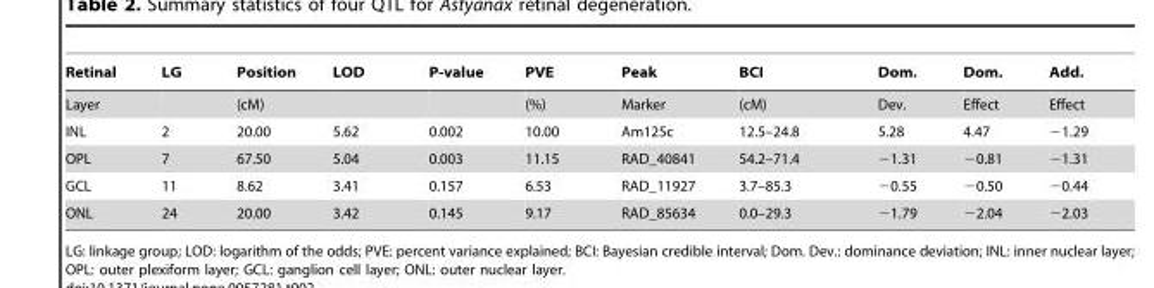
<table><thead><tr><td>Retinal</td><td>LG</td><td>Position</td><td>LOD</td><td>P-value</td><td>PVE</td><td>Peak</td><td>BCI</td><td>Dom.</td><td>Dom.</td><td>Add.</td></tr></thead><tbody><tr><td>Layer</td><td></td><td>(cM)</td><td></td><td></td><td>(%)</td><td>Marker</td><td>(cM)</td><td>Dev.</td><td>Effect</td><td>Effect</td></tr><tr><td>INL</td><td>2</td><td>20.00</td><td>5.62</td><td>0.002</td><td>10.00</td><td>Am125c</td><td>12.5–24.8</td><td>5.28</td><td>4.47</td><td>−1.29</td></tr><tr><td>OPL</td><td>7</td><td>67.50</td><td>5.04</td><td>0.003</td><td>11.15</td><td>RAD_40841</td><td>54.2–71.4</td><td>−1.31</td><td>−0.81</td><td>−1.31</td></tr><tr><td>GCL</td><td>11</td><td>8.62</td><td>3.41</td><td>0.157</td><td>6.53</td><td>RAD_11927</td><td>3.7–85.3</td><td>−0.55</td><td>−0.50</td><td>−0.44</td></tr><tr><td>ONL</td><td>24</td><td>20.00</td><td>3.42</td><td>0.145</td><td>9.17</td><td>RAD_85634</td><td>0.0–29.3</td><td>−1.79</td><td>−2.04</td><td>−2.03</td></tr></tbody></table>